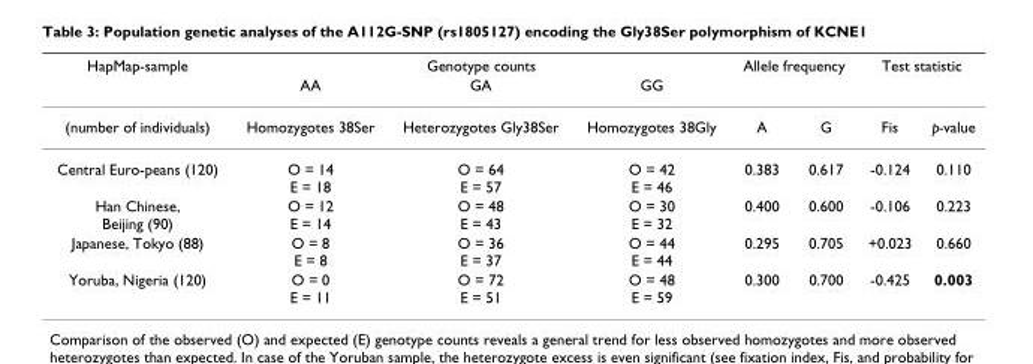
<table><thead><tr><td rowspan="2">HapMap-sample</td><td colspan="3">Genotype counts</td><td colspan="2">Allele frequency</td><td colspan="2">Test statistic</td></tr><tr><td>AA</td><td>GA</td><td>GG</td><td></td><td></td><td></td><td></td></tr></thead><tbody><tr><td>(number of individuals)</td><td>Homozygotes 38Ser</td><td>Heterozygotes Gly38Ser</td><td>Homozygotes 38Gly</td><td>A</td><td>G</td><td>Fis</td><td>p-value</td></tr><tr><td>Central Euro-peans (120)</td><td>O = 14 E = 18</td><td>O = 64 E = 57</td><td>O = 42 E = 46</td><td>0.383</td><td>0.617</td><td>-0.124</td><td>0.110</td></tr><tr><td>Han Chinese, Beijing (90)</td><td>O = 12 E = 14</td><td>O = 48 E = 43</td><td>O = 30 E = 32</td><td>0.400</td><td>0.600</td><td>-0.106</td><td>0.223</td></tr><tr><td>Japanese, Tokyo (88)</td><td>O = 8 E = 8</td><td>O = 36 E = 37</td><td>O = 44 E = 44</td><td>0.295</td><td>0.705</td><td>+0.023</td><td>0.660</td></tr><tr><td>Yoruba, Nigeria (120)</td><td>O = 0 E = 11</td><td>O = 72 E = 51</td><td>O = 48 E = 59</td><td>0.300</td><td>0.700</td><td>-0.425</td><td>0.003</td></tr></tbody></table>